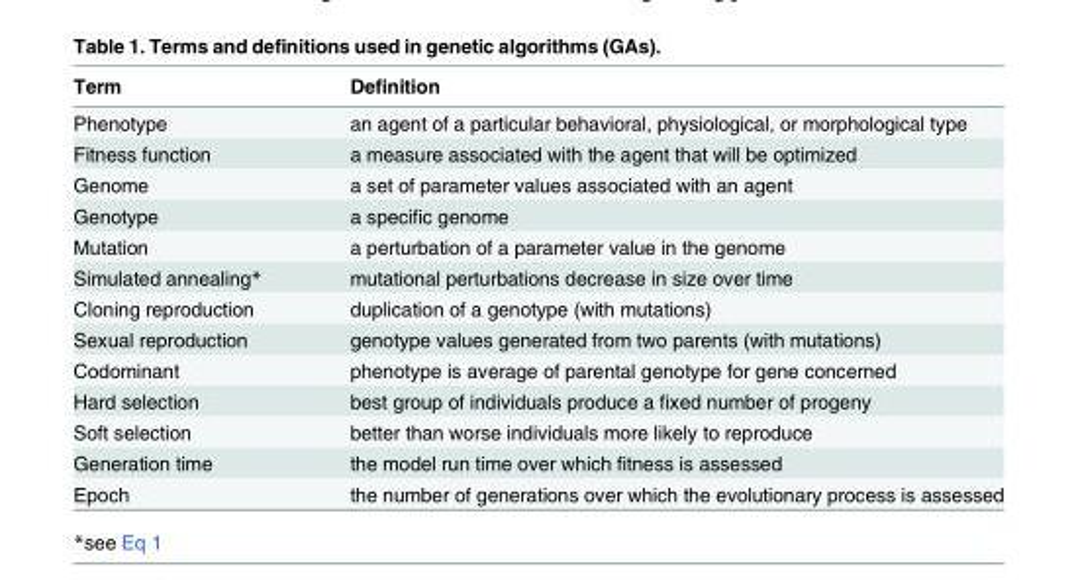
<table><thead><tr><td>Term</td><td>Definition</td></tr></thead><tbody><tr><td>Phenotype</td><td>an agent of a particular behavioral, physiological, or morphological type</td></tr><tr><td>Fitness function</td><td>a measure associated with the agent that will be optimized</td></tr><tr><td>Genome</td><td>a set of parameter values associated with an agent</td></tr><tr><td>Genotype</td><td>a specific genome</td></tr><tr><td>Mutation</td><td>a perturbation of a parameter value in the genome</td></tr><tr><td>Simulated annealing*</td><td>mutational perturbations decrease in size over time</td></tr><tr><td>Cloning reproduction</td><td>duplication of a genotype (with mutations)</td></tr><tr><td>Sexual reproduction</td><td>genotype values generated from two parents (with mutations)</td></tr><tr><td>Codominant</td><td>phenotype is average of parental genotype for gene concerned</td></tr><tr><td>Hard selection</td><td>best group of individuals produce a fixed number of progeny</td></tr><tr><td>Soft selection</td><td>better than worse individuals more likely to reproduce</td></tr><tr><td>Generation time</td><td>the model run time over which fitness is assessed</td></tr><tr><td>Epoch</td><td>the number of generations over which the evolutionary process is assessed</td></tr></tbody></table>